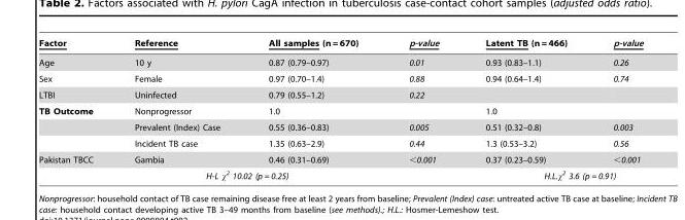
<table><thead><tr><td>Factor</td><td>Reference</td><td>All samples (n = 670)</td><td>p-value</td><td>Latent TB (n = 466)</td><td>p-value</td></tr></thead><tbody><tr><td>Age</td><td>10 y</td><td>0.87 (0.79–0.97)</td><td>0.01</td><td>0.93 (0.83–1.1)</td><td>0.26</td></tr><tr><td>Sex</td><td>Female</td><td>0.97 (0.70–1.4)</td><td>0.88</td><td>0.94 (0.64–1.4)</td><td>0.74</td></tr><tr><td>LTBI</td><td>Uninfected</td><td>0.79 (0.55–1.2)</td><td>0.22</td><td></td><td></td></tr><tr><td rowspan="3">TB Outcome</td><td>Nonprogressor</td><td>1.0</td><td></td><td>1.0</td><td></td></tr><tr><td>Prevalent (Index) Case</td><td>0.55 (0.36–0.83)</td><td>0.005</td><td>0.51 (0.32–0.8)</td><td>0.003</td></tr><tr><td>Incident TB case</td><td>1.35 (0.63–2.9)</td><td>0.44</td><td>1.3 (0.53–3.2)</td><td>0.56</td></tr><tr><td rowspan="2">Pakistan TBCC</td><td>Gambia</td><td>0.46 (0.31–0.69)</td><td>&lt;0.001</td><td>0.37 (0.23–0.59)</td><td>&lt;0.001</td></tr><tr><td colspan="2">H-L χ<sup>2</sup> 10.02 (p = 0.25)</td><td></td><td colspan="2">H.L.χ<sup>2</sup> 3.6 (p = 0.91)</td></tr></tbody></table>